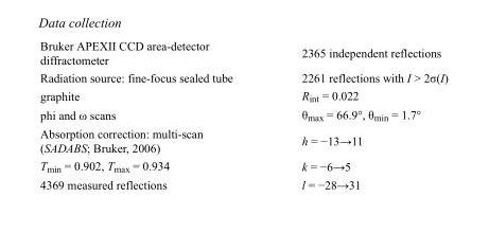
<table><tbody><tr><td>Bruker APEXII CCD area-detector diffractometer</td><td>2365 independent reflections</td></tr><tr><td>Radiation source: fine-focus sealed tube</td><td>2261 reflections with I &gt; 2σ(I)</td></tr><tr><td>graphite</td><td>R<sub>int</sub> = 0.022</td></tr><tr><td>phi and ω scans</td><td>θ<sub>max</sub> = 66.9°, θ<sub>min</sub> = 1.7°</td></tr><tr><td>Absorption correction: multi-scan (SADABS; Bruker, 2006)</td><td>h = −13→11</td></tr><tr><td>T<sub>min</sub> = 0.902, T<sub>max</sub> = 0.934</td><td>k = −6→5</td></tr><tr><td>4369 measured reflections</td><td>l = −28→31</td></tr></tbody></table>